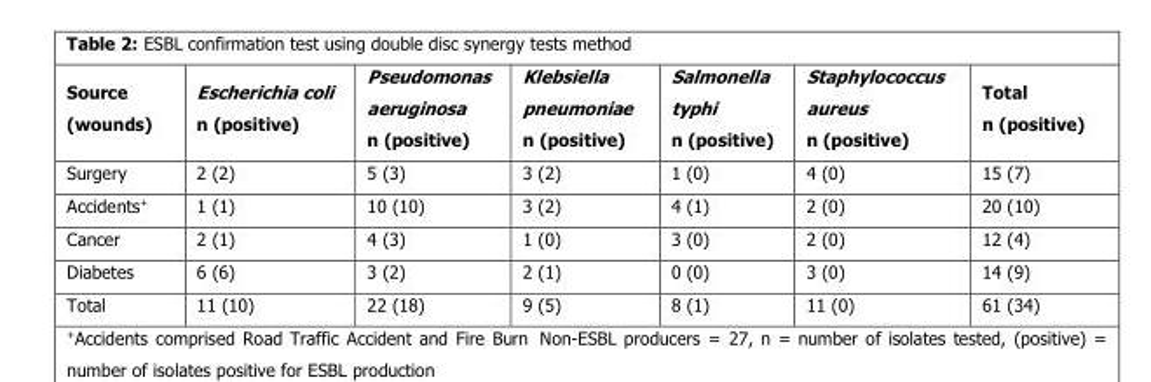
<table><thead><tr><td>Source (wounds)</td><td>Escherichia coli n (positive)</td><td>Pseudomonas aeruginosa n (positive)</td><td>Klebsiella pneumoniae n (positive)</td><td>Salmonella typhi n (positive)</td><td>Staphylococcus aureus n (positive)</td><td>Total n (positive)</td></tr></thead><tbody><tr><td>Surgery</td><td>2 (2)</td><td>5 (3)</td><td>3 (2)</td><td>1 (0)</td><td>4 (0)</td><td>15 (7)</td></tr><tr><td>Accidents<sup>+</sup></td><td>1 (1)</td><td>10 (10)</td><td>3 (2)</td><td>4 (1)</td><td>2 (0)</td><td>20 (10)</td></tr><tr><td>Cancer</td><td>2 (1)</td><td>4 (3)</td><td>1 (0)</td><td>3 (0)</td><td>2 (0)</td><td>12 (4)</td></tr><tr><td>Diabetes</td><td>6 (6)</td><td>3 (2)</td><td>2 (1)</td><td>0 (0)</td><td>3 (0)</td><td>14 (9)</td></tr><tr><td>Total</td><td>11 (10)</td><td>22 (18)</td><td>9 (5)</td><td>8 (1)</td><td>11 (0)</td><td>61 (34)</td></tr></tbody></table>